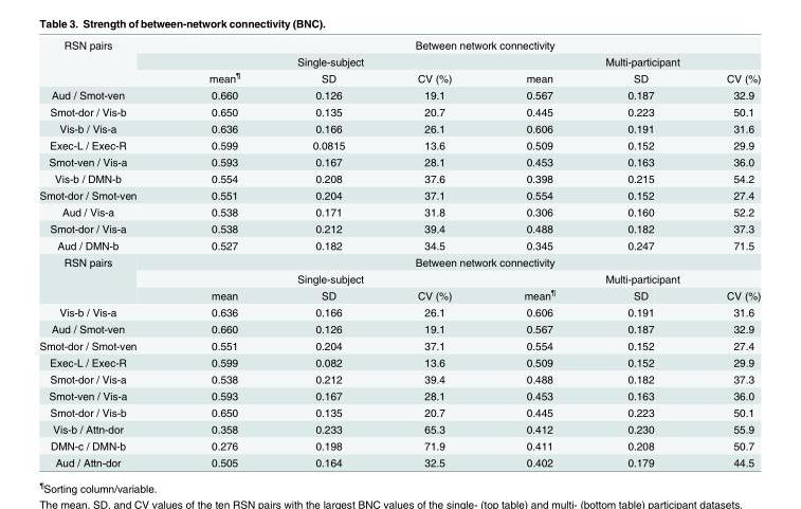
<table><tbody><tr><td rowspan="3">RSN pairs</td><td colspan="6">Between network connectivity</td></tr><tr><td colspan="3">Single-subject</td><td colspan="3">Multi-participant</td></tr><tr><td>mean<sup>¶</sup></td><td>SD</td><td>CV (%)</td><td>mean</td><td>SD</td><td>CV (%)</td></tr><tr><td>Aud / Smot-ven</td><td>0.660</td><td>0.126</td><td>19.1</td><td>0.567</td><td>0.187</td><td>32.9</td></tr><tr><td>Smot-dor / Vis-b</td><td>0.650</td><td>0.135</td><td>20.7</td><td>0.445</td><td>0.223</td><td>50.1</td></tr><tr><td>Vis-b / Vis-a</td><td>0.636</td><td>0.166</td><td>26.1</td><td>0.606</td><td>0.191</td><td>31.6</td></tr><tr><td>Exec-L / Exec-R</td><td>0.599</td><td>0.0815</td><td>13.6</td><td>0.509</td><td>0.152</td><td>29.9</td></tr><tr><td>Smot-ven / Vis-a</td><td>0.593</td><td>0.167</td><td>28.1</td><td>0.453</td><td>0.163</td><td>36.0</td></tr><tr><td>Vis-b / DMN-b</td><td>0.554</td><td>0.208</td><td>37.6</td><td>0.398</td><td>0.215</td><td>54.2</td></tr><tr><td>Smot-dor / Smot-ven</td><td>0.551</td><td>0.204</td><td>37.1</td><td>0.554</td><td>0.152</td><td>27.4</td></tr><tr><td>Aud / Vis-a</td><td>0.538</td><td>0.171</td><td>31.8</td><td>0.306</td><td>0.160</td><td>52.2</td></tr><tr><td>Smot-dor / Vis-a</td><td>0.538</td><td>0.212</td><td>39.4</td><td>0.488</td><td>0.182</td><td>37.3</td></tr><tr><td>Aud / DMN-b</td><td>0.527</td><td>0.182</td><td>34.5</td><td>0.345</td><td>0.247</td><td>71.5</td></tr><tr><td rowspan="3">RSN pairs</td><td colspan="6">Between network connectivity</td></tr><tr><td colspan="3">Single-subject</td><td colspan="3">Multi-participant</td></tr><tr><td>mean</td><td>SD</td><td>CV (%)</td><td>mean<sup>¶</sup></td><td>SD</td><td>CV (%)</td></tr><tr><td>Vis-b / Vis-a</td><td>0.636</td><td>0.166</td><td>26.1</td><td>0.606</td><td>0.191</td><td>31.6</td></tr><tr><td>Aud / Smot-ven</td><td>0.660</td><td>0.126</td><td>19.1</td><td>0.567</td><td>0.187</td><td>32.9</td></tr><tr><td>Smot-dor / Smot-ven</td><td>0.551</td><td>0.204</td><td>37.1</td><td>0.554</td><td>0.152</td><td>27.4</td></tr><tr><td>Exec-L / Exec-R</td><td>0.599</td><td>0.082</td><td>13.6</td><td>0.509</td><td>0.152</td><td>29.9</td></tr><tr><td>Smot-dor / Vis-a</td><td>0.538</td><td>0.212</td><td>39.4</td><td>0.488</td><td>0.182</td><td>37.3</td></tr><tr><td>Smot-ven / Vis-a</td><td>0.593</td><td>0.167</td><td>28.1</td><td>0.453</td><td>0.163</td><td>36.0</td></tr><tr><td>Smot-dor / Vis-b</td><td>0.650</td><td>0.135</td><td>20.7</td><td>0.445</td><td>0.223</td><td>50.1</td></tr><tr><td>Vis-b / Attn-dor</td><td>0.358</td><td>0.233</td><td>65.3</td><td>0.412</td><td>0.230</td><td>55.9</td></tr><tr><td>DMN-c / DMN-b</td><td>0.276</td><td>0.198</td><td>71.9</td><td>0.411</td><td>0.208</td><td>50.7</td></tr><tr><td>Aud / Attn-dor</td><td>0.505</td><td>0.164</td><td>32.5</td><td>0.402</td><td>0.179</td><td>44.5</td></tr></tbody></table>